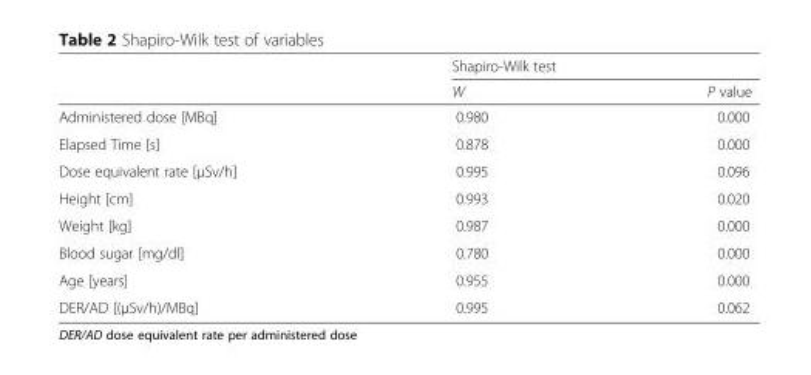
<table><thead><tr><td rowspan="2"></td><td colspan="2">Shapiro-Wilk test</td></tr><tr><td>W</td><td>P value</td></tr></thead><tbody><tr><td>Administered dose [MBq]</td><td>0.980</td><td>0.000</td></tr><tr><td>Elapsed Time [s]</td><td>0.878</td><td>0.000</td></tr><tr><td>Dose equivalent rate [μSv/h]</td><td>0.995</td><td>0.096</td></tr><tr><td>Height [cm]</td><td>0.993</td><td>0.020</td></tr><tr><td>Weight [kg]</td><td>0.987</td><td>0.000</td></tr><tr><td>Blood sugar [mg/dl]</td><td>0.780</td><td>0.000</td></tr><tr><td>Age [years]</td><td>0.955</td><td>0.000</td></tr><tr><td>DER/AD [(μSv/h)/MBq]</td><td>0.995</td><td>0.062</td></tr></tbody></table>